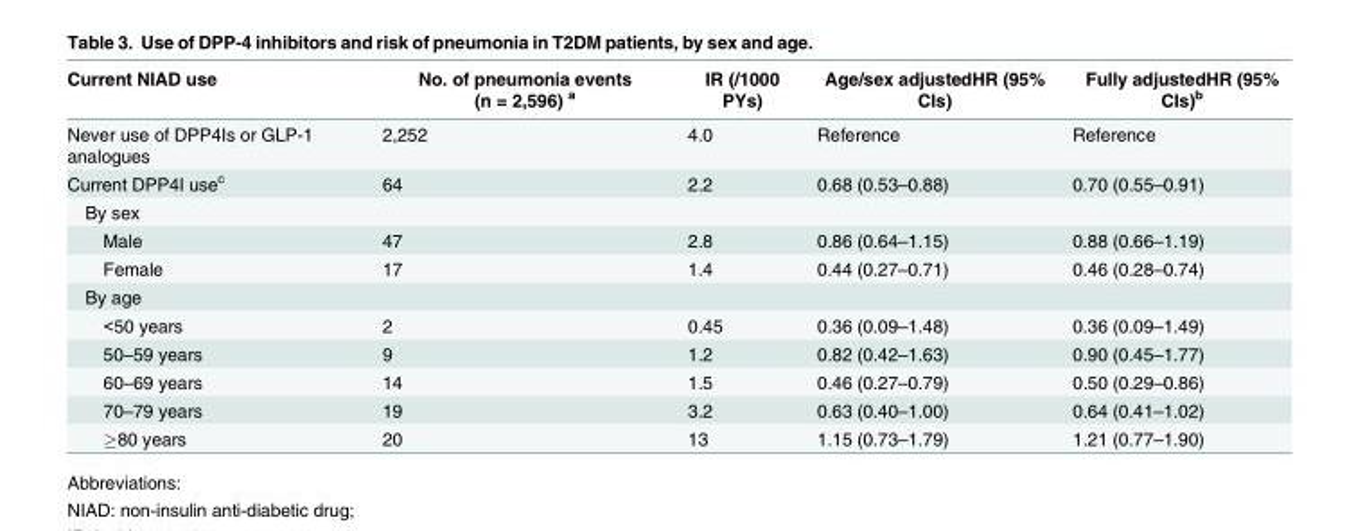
<table><thead><tr><td>Current NIAD use</td><td>No. of pneumonia events (n = 2,596) <sup>a</sup></td><td>IR (/1000 PYs)</td><td>Age/sex adjustedHR (95% CIs)</td><td>Fully adjustedHR (95% CIs)<sup>b</sup></td></tr></thead><tbody><tr><td>Never use of DPP4Is or GLP-1 analogues</td><td>2,252</td><td>4.0</td><td>Reference</td><td>Reference</td></tr><tr><td>Current DPP4I use<sup>c</sup></td><td>64</td><td>2.2</td><td>0.68 (0.53–0.88)</td><td>0.70 (0.55–0.91)</td></tr><tr><td colspan="5">By sex</td></tr><tr><td>Male</td><td>47</td><td>2.8</td><td>0.86 (0.64–1.15)</td><td>0.88 (0.66–1.19)</td></tr><tr><td>Female</td><td>17</td><td>1.4</td><td>0.44 (0.27–0.71)</td><td>0.46 (0.28–0.74)</td></tr><tr><td colspan="5">By age</td></tr><tr><td>&lt;50 years</td><td>2</td><td>0.45</td><td>0.36 (0.09–1.48)</td><td>0.36 (0.09–1.49)</td></tr><tr><td>50–59 years</td><td>9</td><td>1.2</td><td>0.82 (0.42–1.63)</td><td>0.90 (0.45–1.77)</td></tr><tr><td>60–69 years</td><td>14</td><td>1.5</td><td>0.46 (0.27–0.79)</td><td>0.50 (0.29–0.86)</td></tr><tr><td>70–79 years</td><td>19</td><td>3.2</td><td>0.63 (0.40–1.00)</td><td>0.64 (0.41–1.02)</td></tr><tr><td>≥80 years</td><td>20</td><td>13</td><td>1.15 (0.73–1.79)</td><td>1.21 (0.77–1.90)</td></tr></tbody></table>